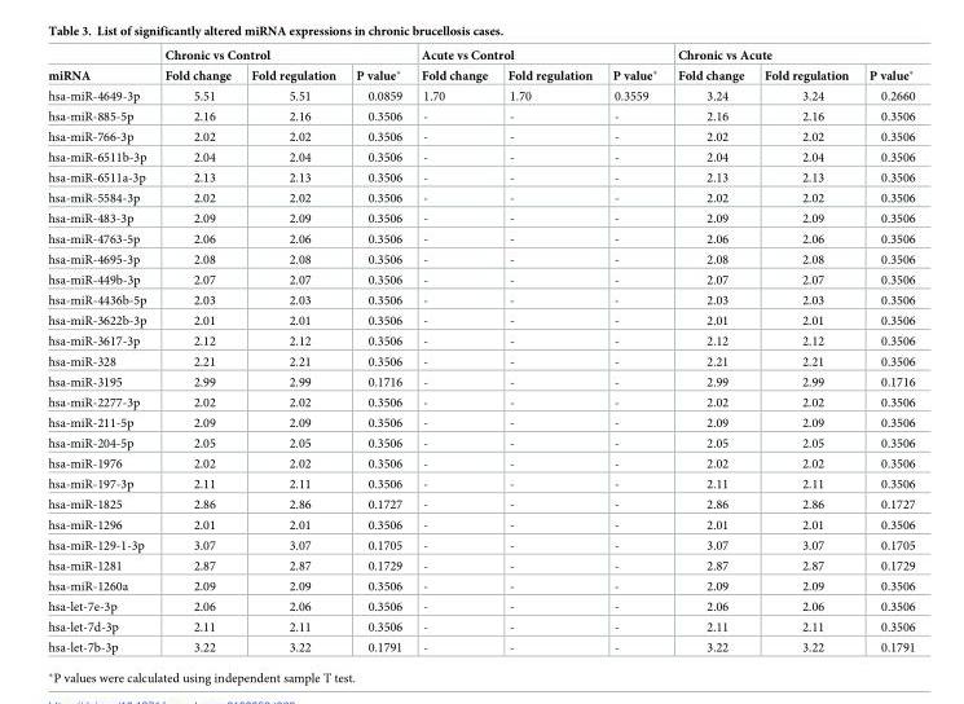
<table><thead><tr><td rowspan="2">miRNA</td><td colspan="3">Chronic vs Control</td><td colspan="3">Acute vs Control</td><td colspan="3">Chronic vs Acute</td></tr><tr><td>Fold change</td><td>Fold regulation</td><td>P value*</td><td>Fold change</td><td>Fold regulation</td><td>P value*</td><td>Fold change</td><td>Fold regulation</td><td>P value*</td></tr></thead><tbody><tr><td>hsa-miR-4649-3p</td><td>5.51</td><td>5.51</td><td>0.0859</td><td>1.70</td><td>1.70</td><td>0.3559</td><td>3.24</td><td>3.24</td><td>0.2660</td></tr><tr><td>hsa-miR-885-5p</td><td>2.16</td><td>2.16</td><td>0.3506</td><td>-</td><td>-</td><td>-</td><td>2.16</td><td>2.16</td><td>0.3506</td></tr><tr><td>hsa-miR-766-3p</td><td>2.02</td><td>2.02</td><td>0.3506</td><td>-</td><td>-</td><td>-</td><td>2.02</td><td>2.02</td><td>0.3506</td></tr><tr><td>hsa-miR-6511b-3p</td><td>2.04</td><td>2.04</td><td>0.3506</td><td>-</td><td>-</td><td>-</td><td>2.04</td><td>2.04</td><td>0.3506</td></tr><tr><td>hsa-miR-6511a-3p</td><td>2.13</td><td>2.13</td><td>0.3506</td><td>-</td><td>-</td><td>-</td><td>2.13</td><td>2.13</td><td>0.3506</td></tr><tr><td>hsa-miR-5584-3p</td><td>2.02</td><td>2.02</td><td>0.3506</td><td>-</td><td>-</td><td>-</td><td>2.02</td><td>2.02</td><td>0.3506</td></tr><tr><td>hsa-miR-483-3p</td><td>2.09</td><td>2.09</td><td>0.3506</td><td>-</td><td>-</td><td>-</td><td>2.09</td><td>2.09</td><td>0.3506</td></tr><tr><td>hsa-miR-4763-5p</td><td>2.06</td><td>2.06</td><td>0.3506</td><td>-</td><td>-</td><td>-</td><td>2.06</td><td>2.06</td><td>0.3506</td></tr><tr><td>hsa-miR-4695-3p</td><td>2.08</td><td>2.08</td><td>0.3506</td><td>-</td><td>-</td><td>-</td><td>2.08</td><td>2.08</td><td>0.3506</td></tr><tr><td>hsa-miR-449b-3p</td><td>2.07</td><td>2.07</td><td>0.3506</td><td>-</td><td>-</td><td>-</td><td>2.07</td><td>2.07</td><td>0.3506</td></tr><tr><td>hsa-miR-4436b-5p</td><td>2.03</td><td>2.03</td><td>0.3506</td><td>-</td><td>-</td><td>-</td><td>2.03</td><td>2.03</td><td>0.3506</td></tr><tr><td>hsa-miR-3622b-3p</td><td>2.01</td><td>2.01</td><td>0.3506</td><td>-</td><td>-</td><td>-</td><td>2.01</td><td>2.01</td><td>0.3506</td></tr><tr><td>hsa-miR-3617-3p</td><td>2.12</td><td>2.12</td><td>0.3506</td><td>-</td><td>-</td><td>-</td><td>2.12</td><td>2.12</td><td>0.3506</td></tr><tr><td>hsa-miR-328</td><td>2.21</td><td>2.21</td><td>0.3506</td><td>-</td><td>-</td><td>-</td><td>2.21</td><td>2.21</td><td>0.3506</td></tr><tr><td>hsa-miR-3195</td><td>2.99</td><td>2.99</td><td>0.1716</td><td>-</td><td>-</td><td>-</td><td>2.99</td><td>2.99</td><td>0.1716</td></tr><tr><td>hsa-miR-2277-3p</td><td>2.02</td><td>2.02</td><td>0.3506</td><td>-</td><td>-</td><td>-</td><td>2.02</td><td>2.02</td><td>0.3506</td></tr><tr><td>hsa-miR-211-5p</td><td>2.09</td><td>2.09</td><td>0.3506</td><td>-</td><td>-</td><td>-</td><td>2.09</td><td>2.09</td><td>0.3506</td></tr><tr><td>hsa-miR-204-5p</td><td>2.05</td><td>2.05</td><td>0.3506</td><td>-</td><td>-</td><td>-</td><td>2.05</td><td>2.05</td><td>0.3506</td></tr><tr><td>hsa-miR-1976</td><td>2.02</td><td>2.02</td><td>0.3506</td><td>-</td><td>-</td><td>-</td><td>2.02</td><td>2.02</td><td>0.3506</td></tr><tr><td>hsa-miR-197-3p</td><td>2.11</td><td>2.11</td><td>0.3506</td><td>-</td><td>-</td><td>-</td><td>2.11</td><td>2.11</td><td>0.3506</td></tr><tr><td>hsa-miR-1825</td><td>2.86</td><td>2.86</td><td>0.1727</td><td>-</td><td>-</td><td>-</td><td>2.86</td><td>2.86</td><td>0.1727</td></tr><tr><td>hsa-miR-1296</td><td>2.01</td><td>2.01</td><td>0.3506</td><td>-</td><td>-</td><td>-</td><td>2.01</td><td>2.01</td><td>0.3506</td></tr><tr><td>hsa-miR-129-1-3p</td><td>3.07</td><td>3.07</td><td>0.1705</td><td>-</td><td>-</td><td>-</td><td>3.07</td><td>3.07</td><td>0.1705</td></tr><tr><td>hsa-miR-1281</td><td>2.87</td><td>2.87</td><td>0.1729</td><td>-</td><td>-</td><td>-</td><td>2.87</td><td>2.87</td><td>0.1729</td></tr><tr><td>hsa-miR-1260a</td><td>2.09</td><td>2.09</td><td>0.3506</td><td>-</td><td>-</td><td>-</td><td>2.09</td><td>2.09</td><td>0.3506</td></tr><tr><td>hsa-let-7e-3p</td><td>2.06</td><td>2.06</td><td>0.3506</td><td>-</td><td>-</td><td>-</td><td>2.06</td><td>2.06</td><td>0.3506</td></tr><tr><td>hsa-let-7d-3p</td><td>2.11</td><td>2.11</td><td>0.3506</td><td>-</td><td>-</td><td>-</td><td>2.11</td><td>2.11</td><td>0.3506</td></tr><tr><td>hsa-let-7b-3p</td><td>3.22</td><td>3.22</td><td>0.1791</td><td>-</td><td>-</td><td>-</td><td>3.22</td><td>3.22</td><td>0.1791</td></tr></tbody></table>